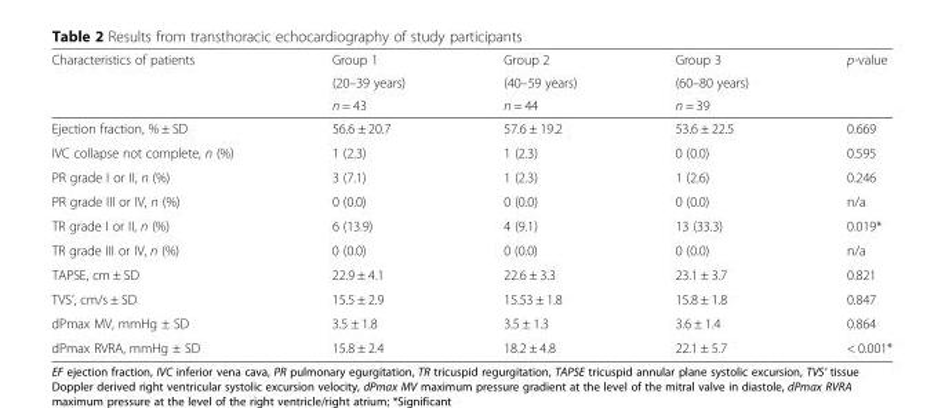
<table><thead><tr><td rowspan="3">Characteristics of patients</td><td rowspan="3">Group 1 (20–39 years) n = 43</td><td rowspan="3">Group 2 (40–59 years) n = 44</td><td rowspan="3">Group 3 (60–80 years) n = 39</td><td rowspan="3">p-value</td></tr><tr></tr><tr></tr></thead><tbody><tr><td>Ejection fraction, % ± SD</td><td>56.6 ± 20.7</td><td>57.6 ± 19.2</td><td>53.6 ± 22.5</td><td>0.669</td></tr><tr><td>IVC collapse not complete, n (%)</td><td>1 (2.3)</td><td>1 (2.3)</td><td>0 (0.0)</td><td>0.595</td></tr><tr><td>PR grade I or II, n (%)</td><td>3 (7.1)</td><td>1 (2.3)</td><td>1 (2.6)</td><td>0.246</td></tr><tr><td>PR grade III or IV, n (%)</td><td>0 (0.0)</td><td>0 (0.0)</td><td>0 (0.0)</td><td>n/a</td></tr><tr><td>TR grade I or II, n (%)</td><td>6 (13.9)</td><td>4 (9.1)</td><td>13 (33.3)</td><td>0.019*</td></tr><tr><td>TR grade III or IV, n (%)</td><td>0 (0.0)</td><td>0 (0.0)</td><td>0 (0.0)</td><td>n/a</td></tr><tr><td>TAPSE, cm ± SD</td><td>22.9 ± 4.1</td><td>22.6 ± 3.3</td><td>23.1 ± 3.7</td><td>0.821</td></tr><tr><td>TVS’, cm/s ± SD</td><td>15.5 ± 2.9</td><td>15.53 ± 1.8</td><td>15.8 ± 1.8</td><td>0.847</td></tr><tr><td>dPmax MV, mmHg ± SD</td><td>3.5 ± 1.8</td><td>3.5 ± 1.3</td><td>3.6 ± 1.4</td><td>0.864</td></tr><tr><td>dPmax RVRA, mmHg ± SD</td><td>15.8 ± 2.4</td><td>18.2 ± 4.8</td><td>22.1 ± 5.7</td><td>&lt; 0.001*</td></tr></tbody></table>